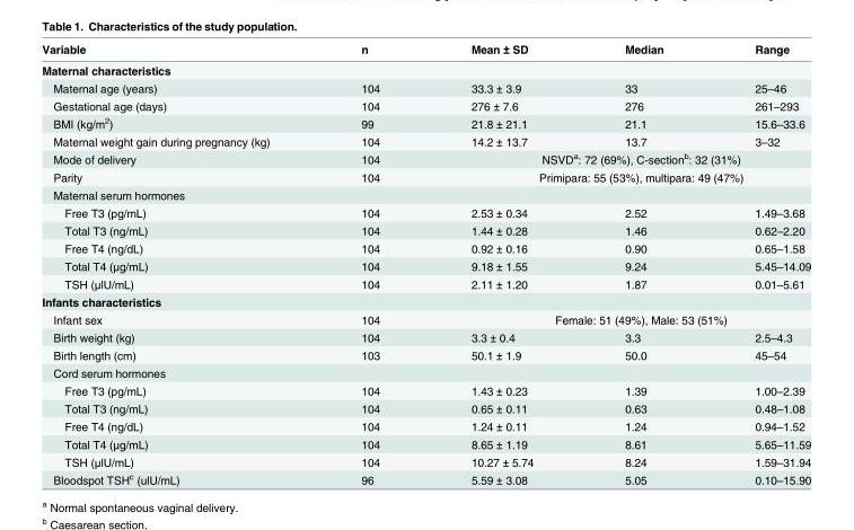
<table><thead><tr><td>Variable</td><td>n</td><td>Mean ± SD</td><td>Median</td><td>Range</td></tr></thead><tbody><tr><td colspan="5">Maternal characteristics</td></tr><tr><td>Maternal age (years)</td><td>104</td><td>33.3 ± 3.9</td><td>33</td><td>25–46</td></tr><tr><td>Gestational age (days)</td><td>104</td><td>276 ± 7.6</td><td>276</td><td>261–293</td></tr><tr><td>BMI (kg/m<sup>2</sup>)</td><td>99</td><td>21.8 ± 21.1</td><td>21.1</td><td>15.6–33.6</td></tr><tr><td>Maternal weight gain during pregnancy (kg)</td><td>104</td><td>14.2 ± 13.7</td><td>13.7</td><td>3–32</td></tr><tr><td>Mode of delivery</td><td>104</td><td colspan="3">NSVD<sup>a</sup>: 72 (69%), C-section<sup>b</sup>: 32 (31%)</td></tr><tr><td>Parity</td><td>104</td><td colspan="3">Primipara: 55 (53%), multipara: 49 (47%)</td></tr><tr><td colspan="5">Maternal serum hormones</td></tr><tr><td>Free T3 (pg/mL)</td><td>104</td><td>2.53 ± 0.34</td><td>2.52</td><td>1.49–3.68</td></tr><tr><td>Total T3 (ng/mL)</td><td>104</td><td>1.44 ± 0.28</td><td>1.46</td><td>0.62–2.20</td></tr><tr><td>Free T4 (ng/dL)</td><td>104</td><td>0.92 ± 0.16</td><td>0.90</td><td>0.65–1.58</td></tr><tr><td>Total T4 (μg/mL)</td><td>104</td><td>9.18 ± 1.55</td><td>9.24</td><td>5.45–14.09</td></tr><tr><td>TSH (μlU/mL)</td><td>104</td><td>2.11 ± 1.20</td><td>1.87</td><td>0.01–5.61</td></tr><tr><td colspan="5">Infants characteristics</td></tr><tr><td>Infant sex</td><td>104</td><td colspan="3">Female: 51 (49%), Male: 53 (51%)</td></tr><tr><td>Birth weight (kg)</td><td>104</td><td>3.3 ± 0.4</td><td>3.3</td><td>2.5–4.3</td></tr><tr><td>Birth length (cm)</td><td>103</td><td>50.1 ± 1.9</td><td>50.0</td><td>45–54</td></tr><tr><td colspan="5">Cord serum hormones</td></tr><tr><td>Free T3 (pg/mL)</td><td>104</td><td>1.43 ± 0.23</td><td>1.39</td><td>1.00–2.39</td></tr><tr><td>Total T3 (ng/mL)</td><td>104</td><td>0.65 ± 0.11</td><td>0.63</td><td>0.48–1.08</td></tr><tr><td>Free T4 (ng/dL)</td><td>104</td><td>1.24 ± 0.11</td><td>1.24</td><td>0.94–1.52</td></tr><tr><td>Total T4 (μg/mL)</td><td>104</td><td>8.65 ± 1.19</td><td>8.61</td><td>5.65–11.59</td></tr><tr><td>TSH (μlU/mL)</td><td>104</td><td>10.27 ± 5.74</td><td>8.24</td><td>1.59–31.94</td></tr><tr><td>Bloodspot TSH<sup>c</sup> (ulU/mL)</td><td>96</td><td>5.59 ± 3.08</td><td>5.05</td><td>0.10–15.90</td></tr></tbody></table>